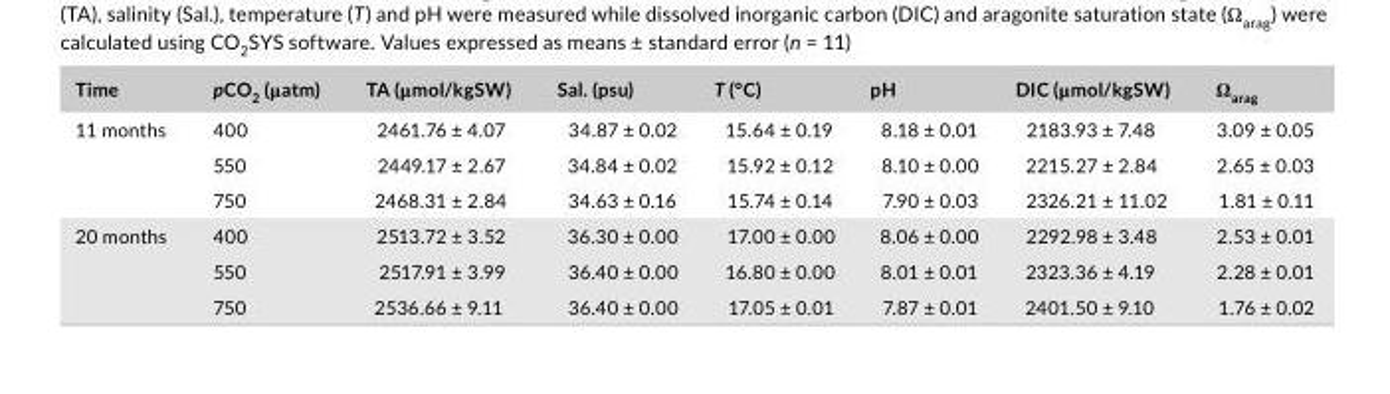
<table><thead><tr><td>Time</td><td>pCO<sub>2</sub> (μatm)</td><td>TA (μmol/kgSW)</td><td>Sal. (psu)</td><td>T (°C)</td><td>pH</td><td>DIC (μmol/kgSW)</td><td>Ω<sub>arag</sub></td></tr></thead><tbody><tr><td rowspan="3">11 months</td><td>400</td><td>2461.76 ± 4.07</td><td>34.87 ± 0.02</td><td>15.64 ± 0.19</td><td>8.18 ± 0.01</td><td>2183.93 ± 7.48</td><td>3.09 ± 0.05</td></tr><tr><td>550</td><td>2449.17 ± 2.67</td><td>34.84 ± 0.02</td><td>15.92 ± 0.12</td><td>8.10 ± 0.00</td><td>2215.27 ± 2.84</td><td>2.65 ± 0.03</td></tr><tr><td>750</td><td>2468.31 ± 2.84</td><td>34.63 ± 0.16</td><td>15.74 ± 0.14</td><td>7.90 ± 0.03</td><td>2326.21 ± 11.02</td><td>1.81 ± 0.11</td></tr><tr><td rowspan="3">20 months</td><td>400</td><td>2513.72 ± 3.52</td><td>36.30 ± 0.00</td><td>17.00 ± 0.00</td><td>8.06 ± 0.00</td><td>2292.98 ± 3.48</td><td>2.53 ± 0.01</td></tr><tr><td>550</td><td>2517.91 ± 3.99</td><td>36.40 ± 0.00</td><td>16.80 ± 0.00</td><td>8.01 ± 0.01</td><td>2323.36 ± 4.19</td><td>2.28 ± 0.01</td></tr><tr><td>750</td><td>2536.66 ± 9.11</td><td>36.40 ± 0.00</td><td>17.05 ± 0.01</td><td>7.87 ± 0.01</td><td>2401.50 ± 9.10</td><td>1.76 ± 0.02</td></tr></tbody></table>